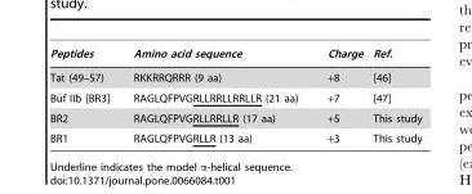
<table><thead><tr><td>Peptides</td><td>Amino acid sequence</td><td>Charge</td><td>Ref.</td></tr></thead><tbody><tr><td>Tat (49–57)</td><td>RKKRRQRRR (9 aa)</td><td>+8</td><td>[46]</td></tr><tr><td>Buf IIb [BR3]</td><td>RAGLQFPVGRLLRRLLRRLLR (21 aa)</td><td>+7</td><td>[47]</td></tr><tr><td>BR2</td><td>RAGLQFPVGRLLRRLLR (17 aa)</td><td>+5</td><td>This study</td></tr><tr><td>BR1</td><td>RAGLQFPVGRLLR (13 aa)</td><td>+3</td><td>This study</td></tr></tbody></table>